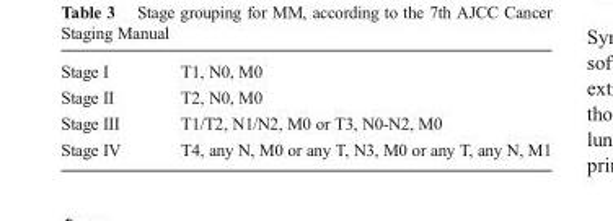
<table><tbody><tr><td>Stage I</td><td>T1, N0, M0</td></tr><tr><td>Stage II</td><td>T2, N0, M0</td></tr><tr><td>Stage III</td><td>T1/T2, N1/N2, M0 or T3, N0-N2, M0</td></tr><tr><td>Stage IV</td><td>T4, any N, M0 or any T, N3, M0 or any T, any N, M1</td></tr></tbody></table>